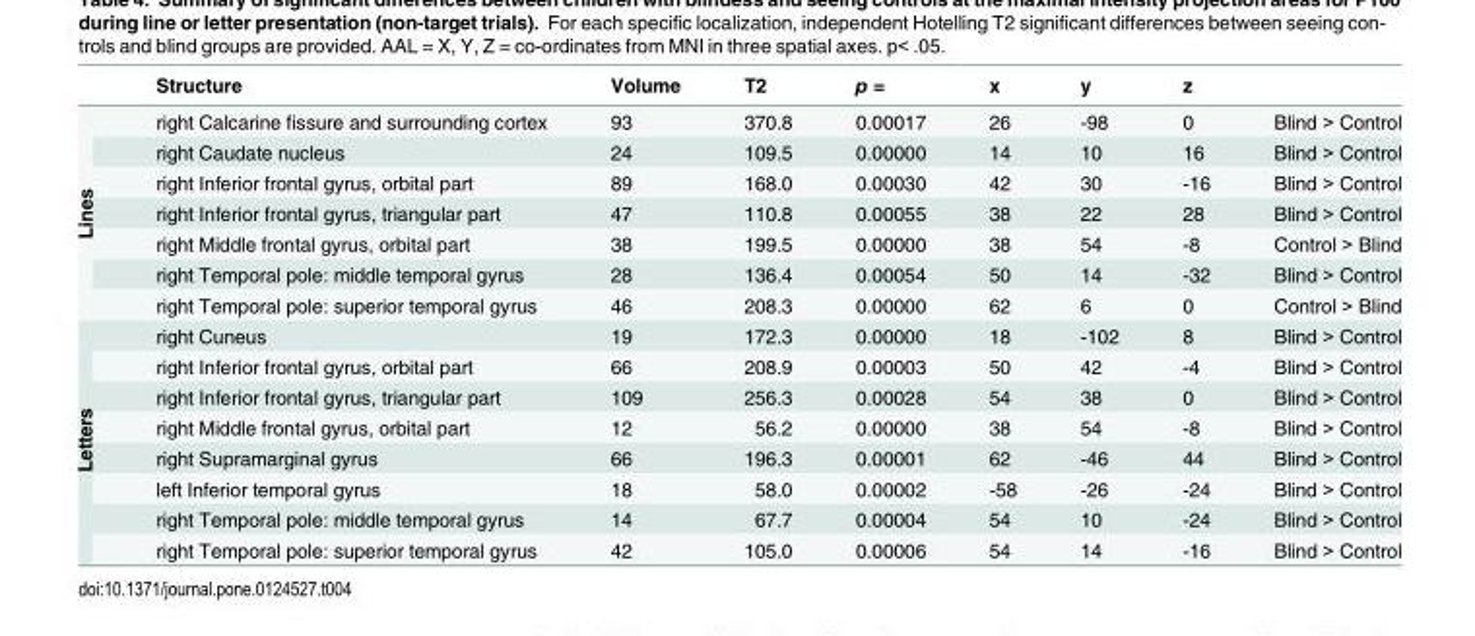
<table><thead><tr><td></td><td>Structure</td><td>Volume</td><td>T2</td><td>p =</td><td>x</td><td>y</td><td>z</td><td></td></tr></thead><tbody><tr><td rowspan="7">Lines</td><td>right Calcarine fissure and surrounding cortex</td><td>93</td><td>370.8</td><td>0.00017</td><td>26</td><td>-98</td><td>0</td><td>Blind &gt; Control</td></tr><tr><td>right Caudate nucleus</td><td>24</td><td>109.5</td><td>0.00000</td><td>14</td><td>10</td><td>16</td><td>Blind &gt; Control</td></tr><tr><td>right Inferior frontal gyrus, orbital part</td><td>89</td><td>168.0</td><td>0.00030</td><td>42</td><td>30</td><td>-16</td><td>Blind &gt; Control</td></tr><tr><td>right Inferior frontal gyrus, triangular part</td><td>47</td><td>110.8</td><td>0.00055</td><td>38</td><td>22</td><td>28</td><td>Blind &gt; Control</td></tr><tr><td>right Middle frontal gyrus, orbital part</td><td>38</td><td>199.5</td><td>0.00000</td><td>38</td><td>54</td><td>-8</td><td>Control &gt; Blind</td></tr><tr><td>right Temporal pole: middle temporal gyrus</td><td>28</td><td>136.4</td><td>0.00054</td><td>50</td><td>14</td><td>-32</td><td>Blind &gt; Control</td></tr><tr><td>right Temporal pole: superior temporal gyrus</td><td>46</td><td>208.3</td><td>0.00000</td><td>62</td><td>6</td><td>0</td><td>Control &gt; Blind</td></tr><tr><td rowspan="8">Letters</td><td>right Cuneus</td><td>19</td><td>172.3</td><td>0.00000</td><td>18</td><td>-102</td><td>8</td><td>Blind &gt; Control</td></tr><tr><td>right Inferior frontal gyrus, orbital part</td><td>66</td><td>208.9</td><td>0.00003</td><td>50</td><td>42</td><td>-4</td><td>Blind &gt; Control</td></tr><tr><td>right Inferior frontal gyrus, triangular part</td><td>109</td><td>256.3</td><td>0.00028</td><td>54</td><td>38</td><td>0</td><td>Blind &gt; Control</td></tr><tr><td>right Middle frontal gyrus, orbital part</td><td>12</td><td>56.2</td><td>0.00000</td><td>38</td><td>54</td><td>-8</td><td>Blind &gt; Control</td></tr><tr><td>right Supramarginal gyrus</td><td>66</td><td>196.3</td><td>0.00001</td><td>62</td><td>-46</td><td>44</td><td>Blind &gt; Control</td></tr><tr><td>left Inferior temporal gyrus</td><td>18</td><td>58.0</td><td>0.00002</td><td>-58</td><td>-26</td><td>-24</td><td>Blind &gt; Control</td></tr><tr><td>right Temporal pole: middle temporal gyrus</td><td>14</td><td>67.7</td><td>0.00004</td><td>54</td><td>10</td><td>-24</td><td>Blind &gt; Control</td></tr><tr><td>right Temporal pole: superior temporal gyrus</td><td>42</td><td>105.0</td><td>0.00006</td><td>54</td><td>14</td><td>-16</td><td>Blind &gt; Control</td></tr></tbody></table>